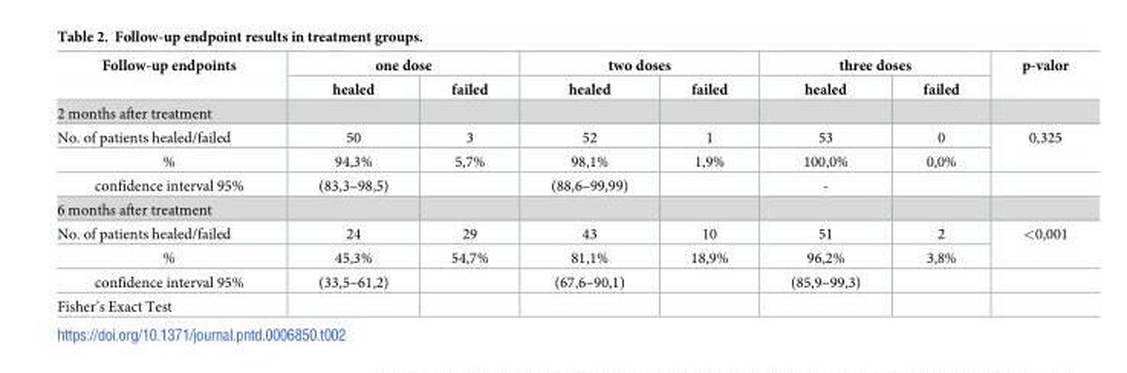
<table><thead><tr><td rowspan="2">Follow-up endpoints</td><td colspan="2">one dose</td><td colspan="2">two doses</td><td colspan="2">three doses</td><td rowspan="2">p-valor</td></tr><tr><td>healed</td><td>failed</td><td>healed</td><td>failed</td><td>healed</td><td>failed</td></tr></thead><tbody><tr><td colspan="8">2 months after treatment</td></tr><tr><td>No. of patients healed/failed</td><td>50</td><td>3</td><td>52</td><td>1</td><td>53</td><td>0</td><td rowspan="2">0,325</td></tr><tr><td>%</td><td>94,3%</td><td>5,7%</td><td>98,1%</td><td>1,9%</td><td>100,0%</td><td>0,0%</td></tr><tr><td>confidence interval 95%</td><td>(83,3–98,5)</td><td></td><td>(88,6–99,99)</td><td></td><td>-</td><td></td><td></td></tr><tr><td colspan="8">6 months after treatment</td></tr><tr><td>No. of patients healed/failed</td><td>24</td><td>29</td><td>43</td><td>10</td><td>51</td><td>2</td><td rowspan="2">&lt;0,001</td></tr><tr><td>%</td><td>45,3%</td><td>54,7%</td><td>81,1%</td><td>18,9%</td><td>96,2%</td><td>3,8%</td></tr><tr><td>confidence interval 95%</td><td>(33,5–61,2)</td><td></td><td>(67,6–90,1)</td><td></td><td>(85,9–99,3)</td><td></td><td></td></tr><tr><td>Fisher’s Exact Test</td><td></td><td></td><td></td><td></td><td></td><td></td><td></td></tr></tbody></table>